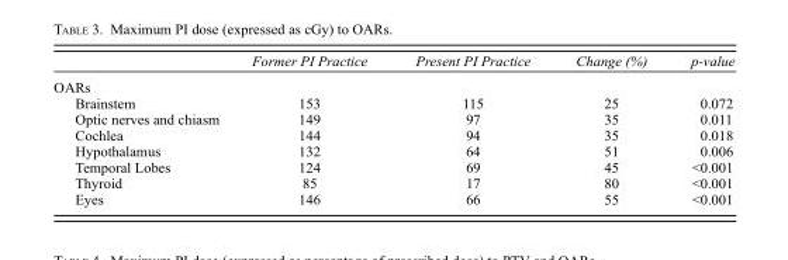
<table><thead><tr><td></td><td>Former PI Practice</td><td>Present PI Practice</td><td>Change (%)</td><td>p-value</td></tr></thead><tbody><tr><td colspan="5">OARs</td></tr><tr><td>Brainstem</td><td>153</td><td>115</td><td>25</td><td>0.072</td></tr><tr><td>Optic nerves and chiasm</td><td>149</td><td>97</td><td>35</td><td>0.011</td></tr><tr><td>Cochlea</td><td>144</td><td>94</td><td>35</td><td>0.018</td></tr><tr><td>Hypothalamus</td><td>132</td><td>64</td><td>51</td><td>0.006</td></tr><tr><td>Temporal Lobes</td><td>124</td><td>69</td><td>45</td><td>&lt;0.001</td></tr><tr><td>Thyroid</td><td>85</td><td>17</td><td>80</td><td>&lt;0.001</td></tr><tr><td>Eyes</td><td>146</td><td>66</td><td>55</td><td>&lt;0.001</td></tr></tbody></table>